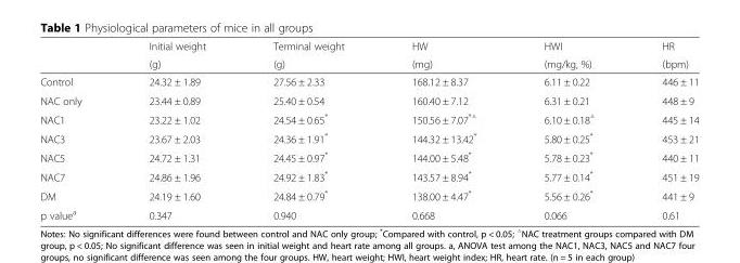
<table><thead><tr><td rowspan="2"></td><td rowspan="2">Initial weight (g)</td><td rowspan="2">Terminal weight (g)</td><td rowspan="2">HW (mg)</td><td rowspan="2">HWI (mg/kg, %)</td><td rowspan="2">HR (bpm)</td></tr><tr></tr></thead><tbody><tr><td>Control</td><td>24.32 ± 1.89</td><td>27.56 ± 2.33</td><td>168.12 ± 8.37</td><td>6.11 ± 0.22</td><td>446 ± 11</td></tr><tr><td>NAC only</td><td>23.44 ± 0.89</td><td>25.40 ± 0.54</td><td>160.40 ± 7.12</td><td>6.31 ± 0.21</td><td>448 ± 9</td></tr><tr><td>NAC1</td><td>23.22 ± 1.02</td><td>24.54 ± 0.65*</td><td>150.56 ± 7.07<sup>*△</sup></td><td>6.10 ± 0.18<sup>△</sup></td><td>445 ± 14</td></tr><tr><td>NAC3</td><td>23.67 ± 2.03</td><td>24.36 ± 1.91*</td><td>144.32 ± 13.42*</td><td>5.80 ± 0.25*</td><td>453 ± 21</td></tr><tr><td>NAC5</td><td>24.72 ± 1.31</td><td>24.45 ± 0.97*</td><td>144.00 ± 5.48*</td><td>5.78 ± 0.23*</td><td>440 ± 11</td></tr><tr><td>NAC7</td><td>24.86 ± 1.96</td><td>24.92 ± 1.83*</td><td>143.57 ± 8.94*</td><td>5.77 ± 0.14*</td><td>451 ± 19</td></tr><tr><td>DM</td><td>24.19 ± 1.60</td><td>24.84 ± 0.79*</td><td>138.00 ± 4.47*</td><td>5.56 ± 0.26*</td><td>441 ± 9</td></tr><tr><td>p value<sup>a</sup></td><td>0.347</td><td>0.940</td><td>0.668</td><td>0.066</td><td>0.61</td></tr></tbody></table>